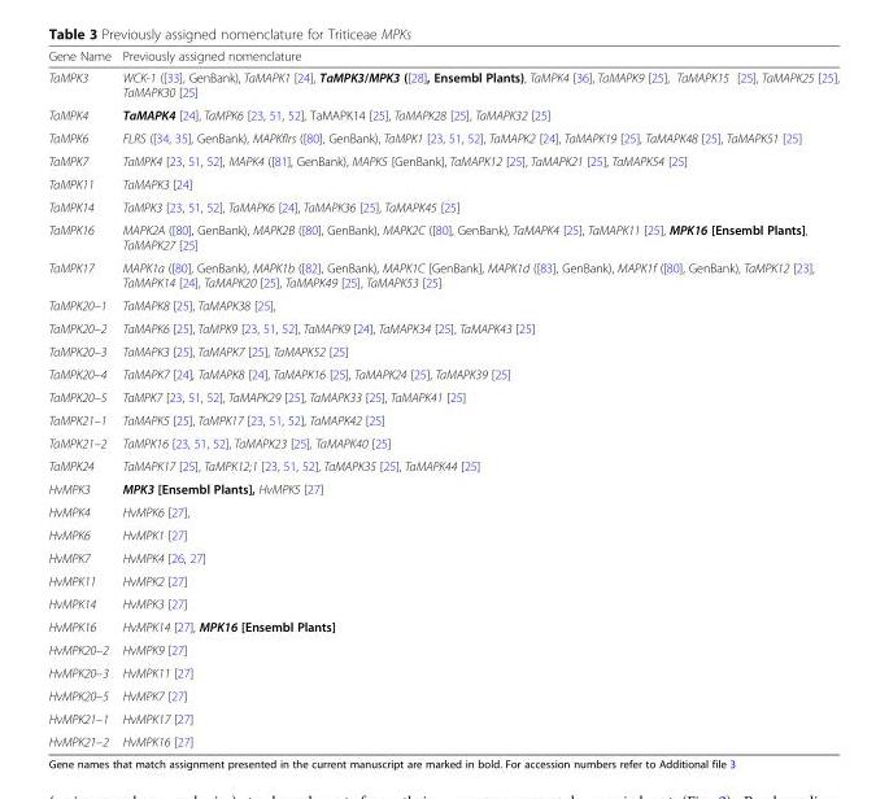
<table><thead><tr><td>Gene Name</td><td>Previously assigned nomenclature</td></tr></thead><tbody><tr><td>TaMPK3</td><td>WCK-1 ([33], GenBank), TaMAPK1 [24], TaMPK3/MPK3 ([28], Ensembl Plants), TaMPK4 [36], TaMAPK9 [25], TaMAPK15 [25], TaMAPK25 [25], TaMAPK30 [25]</td></tr><tr><td>TaMPK4</td><td>TaMAPK4 [24], TaMPK6 [23, 51, 52], TaMAPK14 [25], TaMAPK28 [25], TaMAPK32 [25]</td></tr><tr><td>TaMPK6</td><td>FLRS ([34, 35], GenBank), MAPKflrs ([80], GenBank), TaMPK1 [23, 51, 52], TaMAPK2 [24], TaMAPK19 [25], TaMAPK48 [25], TaMAPK51 [25]</td></tr><tr><td>TaMPK7</td><td>TaMPK4 [23, 51, 52], MAPK4 ([81], GenBank), MAPK5 [GenBank], TaMAPK12 [25], TaMAPK21 [25], TaMAPK54 [25]</td></tr><tr><td>TaMPK11</td><td>TaMAPK3 [24]</td></tr><tr><td>TaMPK14</td><td>TaMPK3 [23, 51, 52], TaMAPK6 [24], TaMAPK36 [25], TaMAPK45 [25]</td></tr><tr><td>TaMPK16</td><td>MAPK2A ([80], GenBank), MAPK2B ([80], GenBank), MAPK2C ([80], GenBank), TaMAPK4 [25], TaMAPK11 [25], MPK16 [Ensembl Plants], TaMAPK27 [25]</td></tr><tr><td>TaMPK17</td><td>MAPK1a ([80], GenBank), MAPK1b ([82], GenBank), MAPK1C [GenBank], MAPK1d ([83], GenBank), MAPK1f ([80], GenBank), TaMPK12 [23], TaMAPK14 [24], TaMAPK20 [25], TaMAPK49 [25], TaMAPK53 [25]</td></tr><tr><td>TaMPK20–1</td><td>TaMAPK8 [25], TaMAPK38 [25],</td></tr><tr><td>TaMPK20–2</td><td>TaMAPK6 [25], TaMPK9 [23, 51, 52], TaMAPK9 [24], TaMAPK34 [25], TaMAPK43 [25]</td></tr><tr><td>TaMPK20–3</td><td>TaMAPK3 [25], TaMAPK7 [25], TaMAPK52 [25]</td></tr><tr><td>TaMPK20–4</td><td>TaMAPK7 [24], TaMAPK8 [24], TaMAPK16 [25], TaMAPK24 [25], TaMAPK39 [25]</td></tr><tr><td>TaMPK20–5</td><td>TaMPK7 [23, 51, 52], TaMAPK29 [25], TaMAPK33 [25], TaMAPK41 [25]</td></tr><tr><td>TaMPK21–1</td><td>TaMAPK5 [25], TaMPK17 [23, 51, 52], TaMAPK42 [25]</td></tr><tr><td>TaMPK21–2</td><td>TaMPK16 [23, 51, 52], TaMAPK23 [25], TaMAPK40 [25]</td></tr><tr><td>TaMPK24</td><td>TaMAPK17 [25], TaMPK12;1 [23, 51, 52], TaMAPK35 [25], TaMAPK44 [25]</td></tr><tr><td>HvMPK3</td><td>MPK3 [Ensembl Plants], HvMPK5 [27]</td></tr><tr><td>HvMPK4</td><td>HvMPK6 [27],</td></tr><tr><td>HvMPK6</td><td>HvMPK1 [27]</td></tr><tr><td>HvMPK7</td><td>HvMPK4 [26, 27]</td></tr><tr><td>HvMPK11</td><td>HvMPK2 [27]</td></tr><tr><td>HvMPK14</td><td>HvMPK3 [27]</td></tr><tr><td>HvMPK16</td><td>HvMPK14 [27], MPK16 [Ensembl Plants]</td></tr><tr><td>HvMPK20–2</td><td>HvMPK9 [27]</td></tr><tr><td>HvMPK20–3</td><td>HvMPK11 [27]</td></tr><tr><td>HvMPK20–5</td><td>HvMPK7 [27]</td></tr><tr><td>HvMPK21–1</td><td>HvMPK17 [27]</td></tr><tr><td>HvMPK21–2</td><td>HvMPK16 [27]</td></tr></tbody></table>